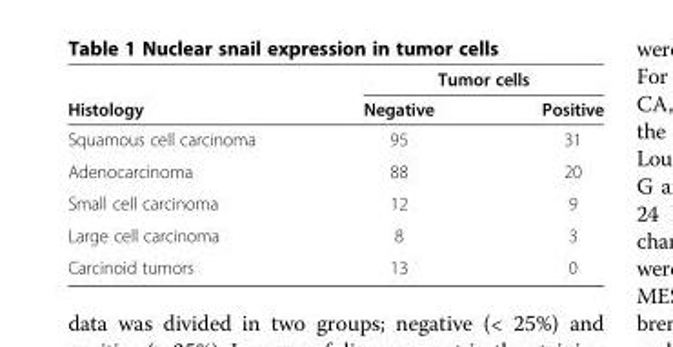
<table><thead><tr><td rowspan="2">Histology</td><td colspan="2">Tumor cells</td></tr><tr><td>Negative</td><td>Positive</td></tr></thead><tbody><tr><td>Squamous cell carcinoma</td><td>95</td><td>31</td></tr><tr><td>Adenocarcinoma</td><td>88</td><td>20</td></tr><tr><td>Small cell carcinoma</td><td>12</td><td>9</td></tr><tr><td>Large cell carcinoma</td><td>8</td><td>3</td></tr><tr><td>Carcinoid tumors</td><td>13</td><td>0</td></tr></tbody></table>